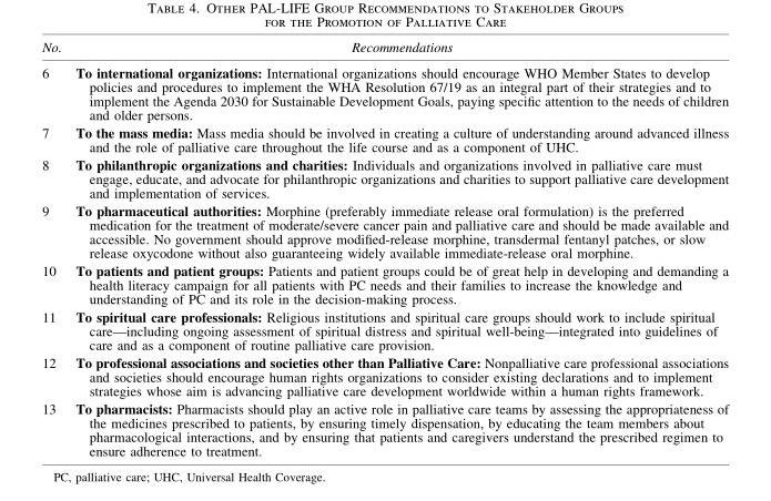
<table><thead><tr><td>No.</td><td>Recommendations</td></tr></thead><tbody><tr><td>6</td><td>To international organizations: International organizations should encourage WHO Member States to develop policies and procedures to implement the WHA Resolution 67/19 as an integral part of their strategies and to implement the Agenda 2030 for Sustainable Development Goals, paying specific attention to the needs of children and older persons.</td></tr><tr><td>7</td><td>To the mass media: Mass media should be involved in creating a culture of understanding around advanced illness and the role of palliative care throughout the life course and as a component of UHC.</td></tr><tr><td>8</td><td>To philanthropic organizations and charities: Individuals and organizations involved in palliative care must engage, educate, and advocate for philanthropic organizations and charities to support palliative care development and implementation of services.</td></tr><tr><td>9</td><td>To pharmaceutical authorities: Morphine (preferably immediate release oral formulation) is the preferred medication for the treatment of moderate/severe cancer pain and palliative care and should be made available and accessible. No government should approve modified-release morphine, transdermal fentanyl patches, or slow release oxycodone without also guaranteeing widely available immediate-release oral morphine.</td></tr><tr><td>10</td><td>To patients and patient groups: Patients and patient groups could be of great help in developing and demanding a health literacy campaign for all patients with PC needs and their families to increase the knowledge and understanding of PC and its role in the decision-making process.</td></tr><tr><td>11</td><td>To spiritual care professionals: Religious institutions and spiritual care groups should work to include spiritual care—including ongoing assessment of spiritual distress and spiritual well-being—integrated into guidelines of care and as a component of routine palliative care provision.</td></tr><tr><td>12</td><td>To professional associations and societies other than Palliative Care: Nonpalliative care professional associations and societies should encourage human rights organizations to consider existing declarations and to implement strategies whose aim is advancing palliative care development worldwide within a human rights framework.</td></tr><tr><td>13</td><td>To pharmacists: Pharmacists should play an active role in palliative care teams by assessing the appropriateness of the medicines prescribed to patients, by ensuring timely dispensation, by educating the team members about pharmacological interactions, and by ensuring that patients and caregivers understand the prescribed regimen to ensure adherence to treatment.</td></tr></tbody></table>